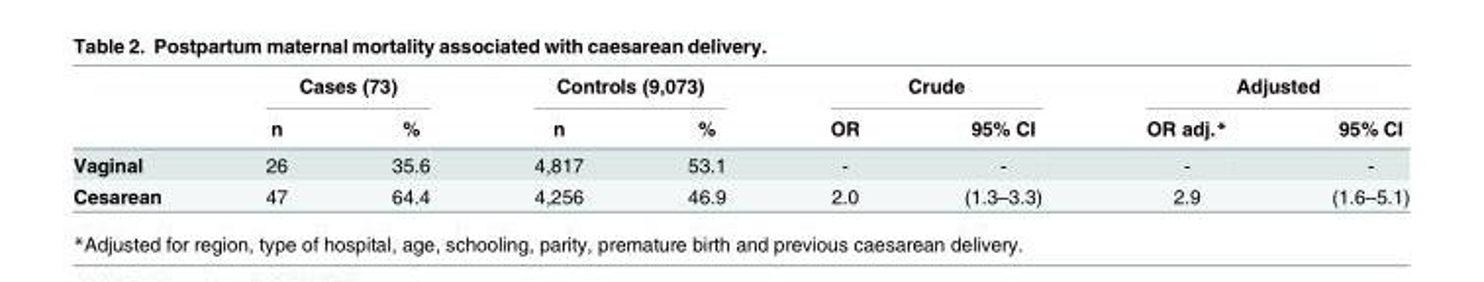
<table><thead><tr><td rowspan="2"></td><td colspan="2">Cases (73)</td><td colspan="2">Controls (9,073)</td><td colspan="2">Crude</td><td colspan="2">Adjusted</td></tr><tr><td>n</td><td>%</td><td>n</td><td>%</td><td>OR</td><td>95% CI</td><td>OR adj.*</td><td>95% CI</td></tr></thead><tbody><tr><td>Vaginal</td><td>26</td><td>35.6</td><td>4,817</td><td>53.1</td><td>-</td><td>-</td><td>-</td><td>-</td></tr><tr><td>Cesarean</td><td>47</td><td>64.4</td><td>4,256</td><td>46.9</td><td>2.0</td><td>(1.3–3.3)</td><td>2.9</td><td>(1.6–5.1)</td></tr></tbody></table>